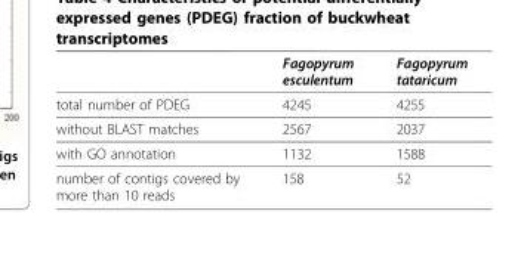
<table><thead><tr><td></td><td>Fagopyrum esculentum</td><td>Fagopyrum tataricum</td></tr></thead><tbody><tr><td>total number of PDEG</td><td>4245</td><td>4255</td></tr><tr><td>without BLAST matches</td><td>2567</td><td>2037</td></tr><tr><td>with GO annotation</td><td>1132</td><td>1588</td></tr><tr><td>number of contigs covered by more than 10 reads</td><td>158</td><td>52</td></tr></tbody></table>